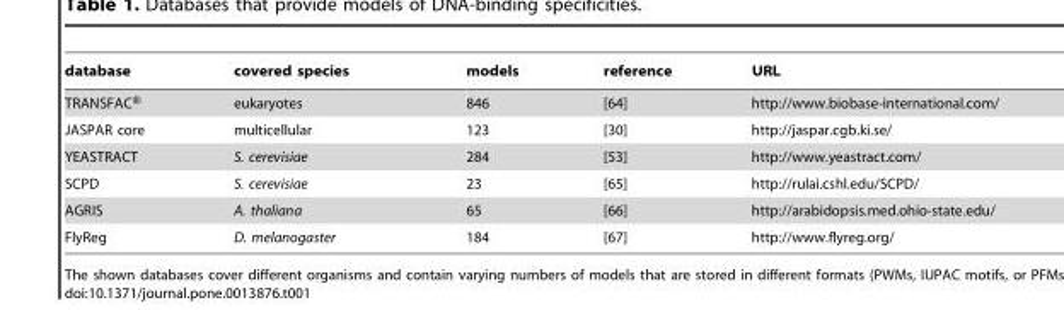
<table><thead><tr><td>database</td><td>covered species</td><td>models</td><td>reference</td><td>URL</td></tr></thead><tbody><tr><td>TRANSFAC®</td><td>eukaryotes</td><td>846</td><td>[64]</td><td>http://www.biobase-international.com/</td></tr><tr><td>JASPAR core</td><td>multicellular</td><td>123</td><td>[30]</td><td>http://jaspar.cgb.ki.se/</td></tr><tr><td>YEASTRACT</td><td>S. cerevisiae</td><td>284</td><td>[53]</td><td>http://www.yeastract.com/</td></tr><tr><td>SCPD</td><td>S. cerevisiae</td><td>23</td><td>[65]</td><td>http://rulai.cshl.edu/SCPD/</td></tr><tr><td>AGRIS</td><td>A. thaliana</td><td>65</td><td>[66]</td><td>http://arabidopsis.med.ohio-state.edu/</td></tr><tr><td>FlyReg</td><td>D. melanogaster</td><td>184</td><td>[67]</td><td>http://www.flyreg.org/</td></tr></tbody></table>